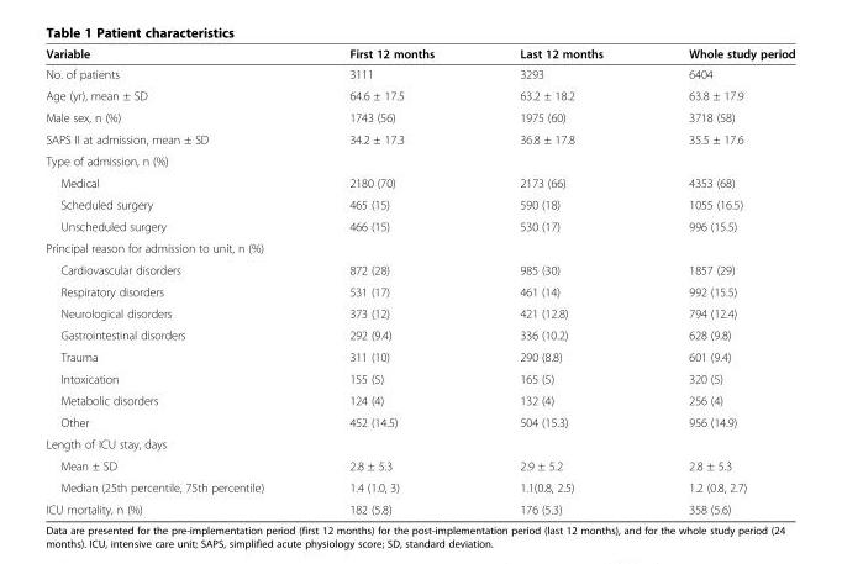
<table><thead><tr><td>Variable</td><td>First 12 months</td><td>Last 12 months</td><td>Whole study period</td></tr></thead><tbody><tr><td>No. of patients</td><td>3111</td><td>3293</td><td>6404</td></tr><tr><td>Age (yr), mean ± SD</td><td>64.6 ± 17.5</td><td>63.2 ± 18.2</td><td>63.8 ± 17.9</td></tr><tr><td>Male sex, n (%)</td><td>1743 (56)</td><td>1975 (60)</td><td>3718 (58)</td></tr><tr><td>SAPS II at admission, mean ± SD</td><td>34.2 ± 17.3</td><td>36.8 ± 17.8</td><td>35.5 ± 17.6</td></tr><tr><td colspan="4">Type of admission, n (%)</td></tr><tr><td>Medical</td><td>2180 (70)</td><td>2173 (66)</td><td>4353 (68)</td></tr><tr><td>Scheduled surgery</td><td>465 (15)</td><td>590 (18)</td><td>1055 (16.5)</td></tr><tr><td>Unscheduled surgery</td><td>466 (15)</td><td>530 (17)</td><td>996 (15.5)</td></tr><tr><td colspan="4">Principal reason for admission to unit, n (%)</td></tr><tr><td>Cardiovascular disorders</td><td>872 (28)</td><td>985 (30)</td><td>1857 (29)</td></tr><tr><td>Respiratory disorders</td><td>531 (17)</td><td>461 (14)</td><td>992 (15.5)</td></tr><tr><td>Neurological disorders</td><td>373 (12)</td><td>421 (12.8)</td><td>794 (12.4)</td></tr><tr><td>Gastrointestinal disorders</td><td>292 (9.4)</td><td>336 (10.2)</td><td>628 (9.8)</td></tr><tr><td>Trauma</td><td>311 (10)</td><td>290 (8.8)</td><td>601 (9.4)</td></tr><tr><td>Intoxication</td><td>155 (5)</td><td>165 (5)</td><td>320 (5)</td></tr><tr><td>Metabolic disorders</td><td>124 (4)</td><td>132 (4)</td><td>256 (4)</td></tr><tr><td>Other</td><td>452 (14.5)</td><td>504 (15.3)</td><td>956 (14.9)</td></tr><tr><td colspan="4">Length of ICU stay, days</td></tr><tr><td>Mean ± SD</td><td>2.8 ± 5.3</td><td>2.9 ± 5.2</td><td>2.8 ± 5.3</td></tr><tr><td>Median (25th percentile, 75th percentile)</td><td>1.4 (1.0, 3)</td><td>1.1(0.8, 2.5)</td><td>1.2 (0.8, 2.7)</td></tr><tr><td>ICU mortality, n (%)</td><td>182 (5.8)</td><td>176 (5.3)</td><td>358 (5.6)</td></tr></tbody></table>